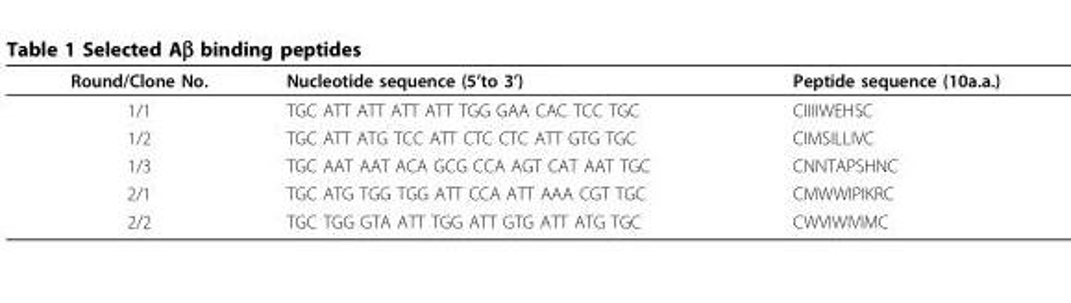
<table><thead><tr><td>Round/Clone No.</td><td>Nucleotide sequence (5’to 3’)</td><td>Peptide sequence (10a.a.)</td></tr></thead><tbody><tr><td>1/1</td><td>TGC ATT ATT ATT ATT TGG GAA CAC TCC TGC</td><td>CIIIIWEHSC</td></tr><tr><td>1/2</td><td>TGC ATT ATG TCC ATT CTC CTC ATT GTG TGC</td><td>CIMSILLIVC</td></tr><tr><td>1/3</td><td>TGC AAT AAT ACA GCG CCA AGT CAT AAT TGC</td><td>CNNTAPSHNC</td></tr><tr><td>2/1</td><td>TGC ATG TGG TGG ATT CCA ATT AAA CGT TGC</td><td>CMWWIPIKRC</td></tr><tr><td>2/2</td><td>TGC TGG GTA ATT TGG ATT GTG ATT ATG TGC</td><td>CWVIWIVIMC</td></tr></tbody></table>